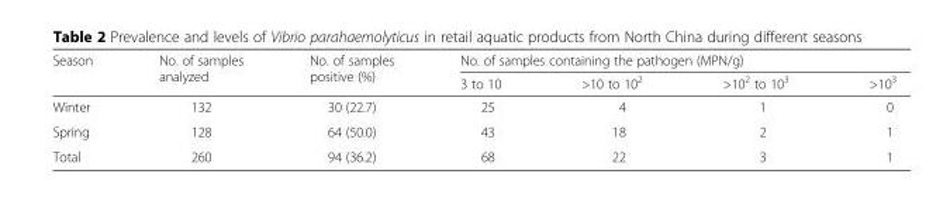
<table><thead><tr><td rowspan="2">Season</td><td rowspan="2">No. of samples analyzed</td><td rowspan="2">No. of samples positive (%)</td><td colspan="4">No. of samples containing the pathogen (MPN/g)</td></tr><tr><td>3 to 10</td><td>&gt;10 to 10<sup>2</sup></td><td>&gt;10<sup>2</sup> to 10<sup>3</sup></td><td>&gt;10<sup>3</sup></td></tr></thead><tbody><tr><td>Winter</td><td>132</td><td>30 (22.7)</td><td>25</td><td>4</td><td>1</td><td>0</td></tr><tr><td>Spring</td><td>128</td><td>64 (50.0)</td><td>43</td><td>18</td><td>2</td><td>1</td></tr><tr><td>Total</td><td>260</td><td>94 (36.2)</td><td>68</td><td>22</td><td>3</td><td>1</td></tr></tbody></table>